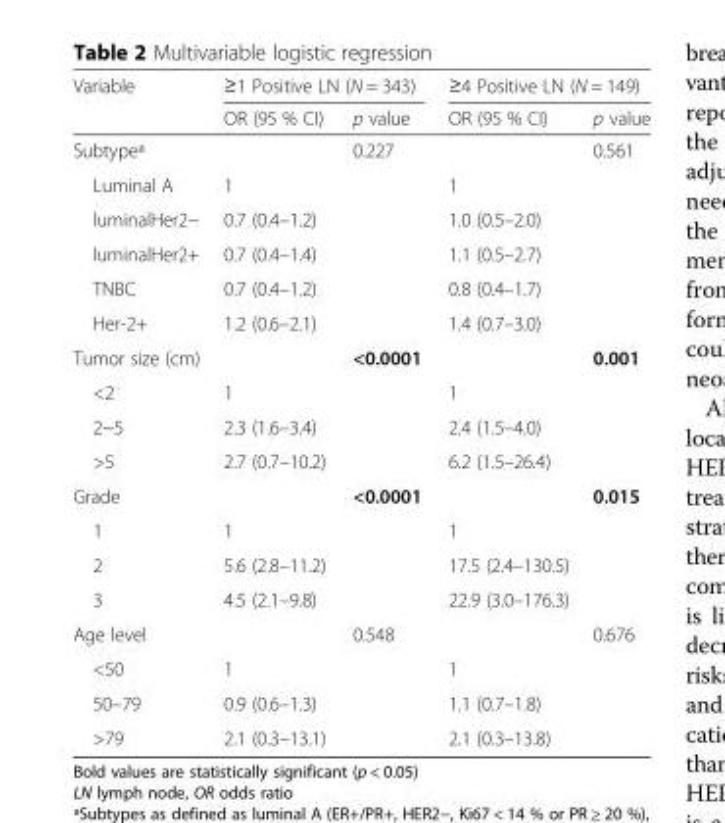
<table><thead><tr><td rowspan="2">Variable</td><td colspan="2">≥1 Positive LN (N = 343)</td><td colspan="2">≥4 Positive LN (N = 149)</td></tr><tr><td>OR (95 % CI)</td><td>p value</td><td>OR (95 % CI)</td><td>p value</td></tr></thead><tbody><tr><td>Subtypeª</td><td></td><td>0.227</td><td></td><td>0.561</td></tr><tr><td>Luminal A</td><td>1</td><td></td><td>1</td><td></td></tr><tr><td>luminalHer2−</td><td>0.7 (0.4–1.2)</td><td></td><td>1.0 (0.5–2.0)</td><td></td></tr><tr><td>luminalHer2+</td><td>0.7 (0.4–1.4)</td><td></td><td>1.1 (0.5–2.7)</td><td></td></tr><tr><td>TNBC</td><td>0.7 (0.4–1.2)</td><td></td><td>0.8 (0.4–1.7)</td><td></td></tr><tr><td>Her-2+</td><td>1.2 (0.6–2.1)</td><td></td><td>1.4 (0.7–3.0)</td><td></td></tr><tr><td>Tumor size (cm)</td><td></td><td>&lt;0.0001</td><td></td><td>0.001</td></tr><tr><td>&lt;2</td><td>1</td><td></td><td>1</td><td></td></tr><tr><td>2~5</td><td>2.3 (1.6–3.4)</td><td></td><td>2.4 (1.5–4.0)</td><td></td></tr><tr><td>&gt;5</td><td>2.7 (0.7–10.2)</td><td></td><td>6.2 (1.5–26.4)</td><td></td></tr><tr><td>Grade</td><td></td><td>&lt;0.0001</td><td></td><td>0.015</td></tr><tr><td>1</td><td>1</td><td></td><td>1</td><td></td></tr><tr><td>2</td><td>5.6 (2.8–11.2)</td><td></td><td>17.5 (2.4–130.5)</td><td></td></tr><tr><td>3</td><td>4.5 (2.1–9.8)</td><td></td><td>22.9 (3.0–176.3)</td><td></td></tr><tr><td>Age level</td><td></td><td>0.548</td><td></td><td>0.676</td></tr><tr><td>&lt;50</td><td>1</td><td></td><td>1</td><td></td></tr><tr><td>50–79</td><td>0.9 (0.6–1.3)</td><td></td><td>1.1 (0.7–1.8)</td><td></td></tr><tr><td>&gt;79</td><td>2.1 (0.3–13.1)</td><td></td><td>2.1 (0.3–13.8)</td><td></td></tr></tbody></table>